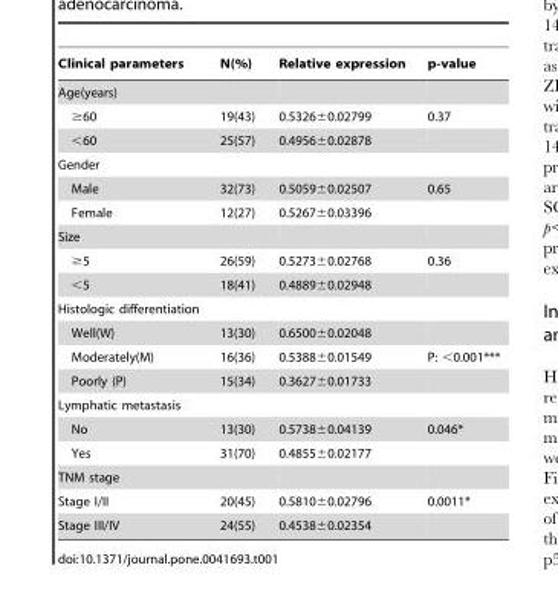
<table><thead><tr><td>Clinical parameters</td><td>N(%)</td><td>Relative expression</td><td>p-value</td></tr></thead><tbody><tr><td colspan="4">Age(years)</td></tr><tr><td>≥60</td><td>19(43)</td><td>0.5326±0.02799</td><td>0.37</td></tr><tr><td>&lt;60</td><td>25(57)</td><td>0.4956±0.02878</td><td></td></tr><tr><td colspan="4">Gender</td></tr><tr><td>Male</td><td>32(73)</td><td>0.5059±0.02507</td><td>0.65</td></tr><tr><td>Female</td><td>12(27)</td><td>0.5267±0.03396</td><td></td></tr><tr><td colspan="4">Size</td></tr><tr><td>≥5</td><td>26(59)</td><td>0.5273±0.02768</td><td>0.36</td></tr><tr><td>&lt;5</td><td>18(41)</td><td>0.4889±0.02948</td><td></td></tr><tr><td colspan="4">Histologic differentiation</td></tr><tr><td>Well(W)</td><td>13(30)</td><td>0.6500±0.02048</td><td></td></tr><tr><td>Moderately(M)</td><td>16(36)</td><td>0.5388±0.01549</td><td>P: &lt;0.001***</td></tr><tr><td>Poorly (P)</td><td>15(34)</td><td>0.3627±0.01733</td><td></td></tr><tr><td colspan="4">Lymphatic metastasis</td></tr><tr><td>No</td><td>13(30)</td><td>0.5738±0.04139</td><td>0.046*</td></tr><tr><td>Yes</td><td>31(70)</td><td>0.4855±0.02177</td><td></td></tr><tr><td colspan="4">TNM stage</td></tr><tr><td>Stage I/II</td><td>20(45)</td><td>0.5810±0.02796</td><td>0.0011*</td></tr><tr><td>Stage III/IV</td><td>24(55)</td><td>0.4538±0.02354</td><td></td></tr></tbody></table>